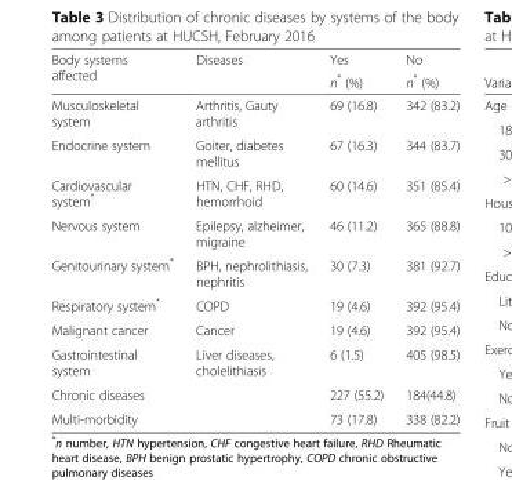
<table><thead><tr><td rowspan="2">Body systems affected</td><td rowspan="2">Diseases</td><td rowspan="2">Yes n* (%)</td><td rowspan="2">No n* (%)</td></tr><tr></tr></thead><tbody><tr><td>Musculoskeletal system</td><td>Arthritis, Gauty arthritis</td><td>69 (16.8)</td><td>342 (83.2)</td></tr><tr><td>Endocrine system</td><td>Goiter, diabetes mellitus</td><td>67 (16.3)</td><td>344 (83.7)</td></tr><tr><td>Cardiovascular system*</td><td>HTN, CHF, RHD, hemorrhoid</td><td>60 (14.6)</td><td>351 (85.4)</td></tr><tr><td>Nervous system</td><td>Epilepsy, alzheimer, migraine</td><td>46 (11.2)</td><td>365 (88.8)</td></tr><tr><td>Genitourinary system*</td><td>BPH, nephrolithiasis, nephritis</td><td>30 (7.3)</td><td>381 (92.7)</td></tr><tr><td>Respiratory system*</td><td>COPD</td><td>19 (4.6)</td><td>392 (95.4)</td></tr><tr><td>Malignant cancer</td><td>Cancer</td><td>19 (4.6)</td><td>392 (95.4)</td></tr><tr><td>Gastrointestinal system</td><td>Liver diseases, cholelithiasis</td><td>6 (1.5)</td><td>405 (98.5)</td></tr><tr><td>Chronic diseases</td><td></td><td>227 (55.2)</td><td>184(44.8)</td></tr><tr><td>Multi-morbidity</td><td></td><td>73 (17.8)</td><td>338 (82.2)</td></tr></tbody></table>